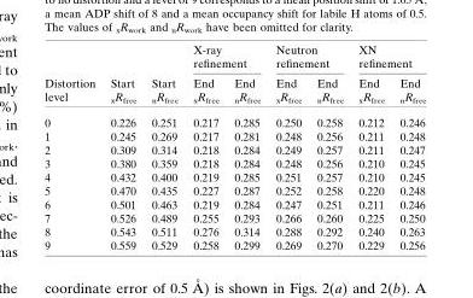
<table><thead><tr><td rowspan="2">Distortion level</td><td rowspan="2">Start <sub>x</sub>R<sub>free</sub></td><td rowspan="2">Start <sub>n</sub>R<sub>free</sub></td><td colspan="2">X-ray refinement</td><td colspan="2">Neutron refinement</td><td colspan="2">XN refinement</td></tr><tr><td>End <sub>x</sub>R<sub>free</sub></td><td>End <sub>n</sub>R<sub>free</sub></td><td>End <sub>x</sub>R<sub>free</sub></td><td>End <sub>n</sub>R<sub>free</sub></td><td>End <sub>x</sub>R<sub>free</sub></td><td>End <sub>n</sub>R<sub>free</sub></td></tr></thead><tbody><tr><td>0</td><td>0.226</td><td>0.251</td><td>0.217</td><td>0.285</td><td>0.250</td><td>0.258</td><td>0.212</td><td>0.246</td></tr><tr><td>1</td><td>0.245</td><td>0.269</td><td>0.217</td><td>0.281</td><td>0.248</td><td>0.256</td><td>0.211</td><td>0.248</td></tr><tr><td>2</td><td>0.309</td><td>0.314</td><td>0.218</td><td>0.284</td><td>0.249</td><td>0.257</td><td>0.211</td><td>0.247</td></tr><tr><td>3</td><td>0.380</td><td>0.359</td><td>0.218</td><td>0.284</td><td>0.248</td><td>0.256</td><td>0.210</td><td>0.245</td></tr><tr><td>4</td><td>0.432</td><td>0.400</td><td>0.219</td><td>0.285</td><td>0.251</td><td>0.257</td><td>0.210</td><td>0.245</td></tr><tr><td>5</td><td>0.470</td><td>0.435</td><td>0.227</td><td>0.287</td><td>0.252</td><td>0.258</td><td>0.220</td><td>0.248</td></tr><tr><td>6</td><td>0.501</td><td>0.463</td><td>0.219</td><td>0.284</td><td>0.247</td><td>0.251</td><td>0.211</td><td>0.246</td></tr><tr><td>7</td><td>0.526</td><td>0.489</td><td>0.255</td><td>0.293</td><td>0.266</td><td>0.260</td><td>0.225</td><td>0.250</td></tr><tr><td>8</td><td>0.543</td><td>0.511</td><td>0.276</td><td>0.314</td><td>0.288</td><td>0.292</td><td>0.240</td><td>0.263</td></tr><tr><td>9</td><td>0.559</td><td>0.529</td><td>0.258</td><td>0.299</td><td>0.269</td><td>0.270</td><td>0.229</td><td>0.256</td></tr></tbody></table>